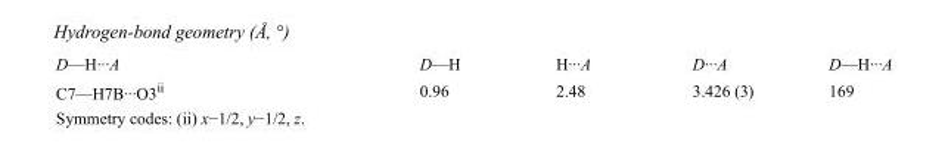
<table><tbody><tr><td>D—H···A</td><td>D—H</td><td>H···A</td><td>D···A</td><td>D—H···A</td></tr><tr><td>C7—H7B···O3<sup>ii</sup></td><td>0.96</td><td>2.48</td><td>3.426 (3)</td><td>169</td></tr></tbody></table>